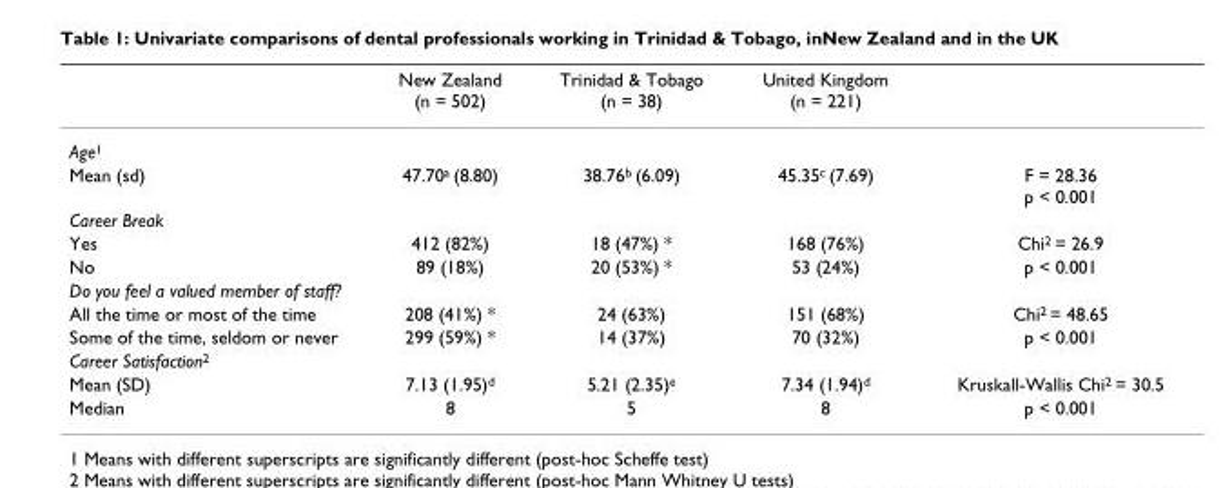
<table><thead><tr><td></td><td>New Zealand (n = 502)</td><td>Trinidad &amp; Tobago (n = 38)</td><td>United Kingdom (n = 221)</td><td></td></tr></thead><tbody><tr><td colspan="5">Age1</td></tr><tr><td>Mean (sd)</td><td>47.70a (8.80)</td><td>38.76b (6.09)</td><td>45.35c (7.69)</td><td>F = 28.36 p &lt; 0.001</td></tr><tr><td colspan="5">Career Break</td></tr><tr><td>Yes</td><td>412 (82%)</td><td>18 (47%) *</td><td>168 (76%)</td><td>Chi2 = 26.9</td></tr><tr><td>No</td><td>89 (18%)</td><td>20 (53%) *</td><td>53 (24%)</td><td>p &lt; 0.001</td></tr><tr><td colspan="5">Do you feel a valued member of staff?</td></tr><tr><td>All the time or most of the time</td><td>208 (41%) *</td><td>24 (63%)</td><td>151 (68%)</td><td>Chi2 = 48.65</td></tr><tr><td>Some of the time, seldom or never</td><td>299 (59%) *</td><td>14 (37%)</td><td>70 (32%)</td><td>p &lt; 0.001</td></tr><tr><td colspan="5">Career Satisfaction2</td></tr><tr><td>Mean (SD)</td><td>7.13 (1.95)d</td><td>5.21 (2.35)e</td><td>7.34 (1.94)d</td><td>Kruskall-Wallis Chi2 = 30.5</td></tr><tr><td>Median</td><td>8</td><td>5</td><td>8</td><td>p &lt; 0.001</td></tr></tbody></table>